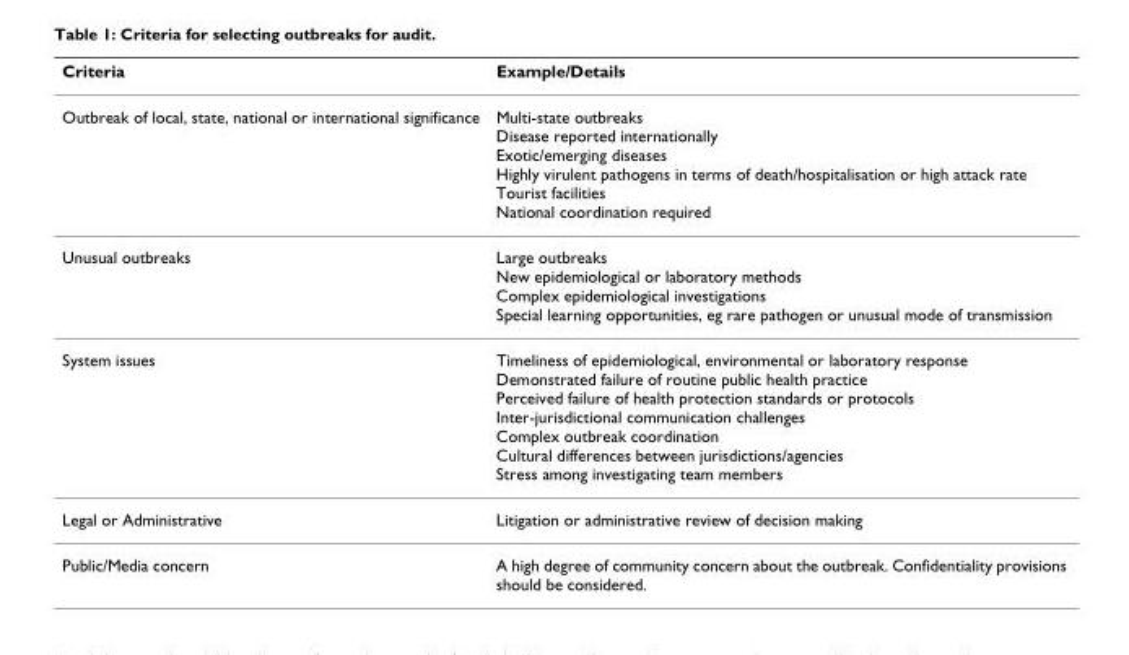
<table><thead><tr><td>Criteria</td><td>Example/Details</td></tr></thead><tbody><tr><td>Outbreak of local, state, national or international significance</td><td>Multi-state outbreaks Disease reported internationally Exotic/emerging diseases Highly virulent pathogens in terms of death/hospitalisation or high attack rate Tourist facilities National coordination required</td></tr><tr><td>Unusual outbreaks</td><td>Large outbreaks New epidemiological or laboratory methods Complex epidemiological investigations Special learning opportunities, eg rare pathogen or unusual mode of transmission</td></tr><tr><td>System issues</td><td>Timeliness of epidemiological, environmental or laboratory response Demonstrated failure of routine public health practice Perceived failure of health protection standards or protocols Inter-jurisdictional communication challenges Complex outbreak coordination Cultural differences between jurisdictions/agencies Stress among investigating team members</td></tr><tr><td>Legal or Administrative</td><td>Litigation or administrative review of decision making</td></tr><tr><td>Public/Media concern</td><td>A high degree of community concern about the outbreak. Confidentiality provisions should be considered.</td></tr></tbody></table>